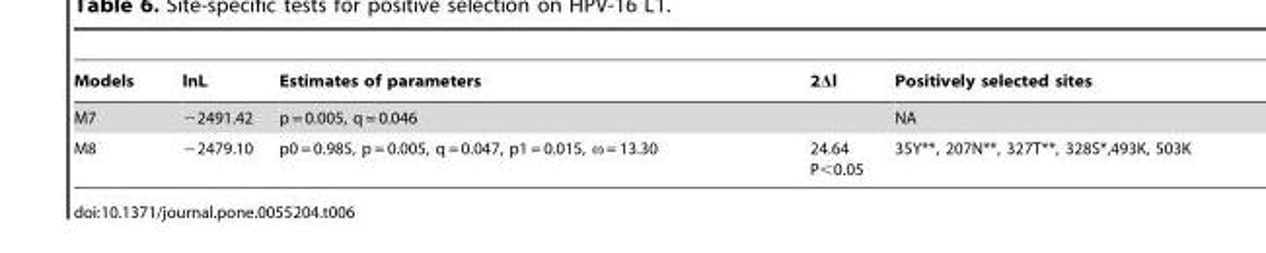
<table><thead><tr><td>Models</td><td>lnL</td><td>Estimates of parameters</td><td>2Δl</td><td>Positively selected sites</td></tr></thead><tbody><tr><td>M7</td><td>−2491.42</td><td>p = 0.005, q = 0.046</td><td></td><td>NA</td></tr><tr><td>M8</td><td>−2479.10</td><td>p0 = 0.985, p = 0.005, q = 0.047, p1 = 0.015, ω = 13.30</td><td>24.64 P&lt;0.05</td><td>35Y**, 207N**, 327T**, 328S*,493K, 503K</td></tr></tbody></table>